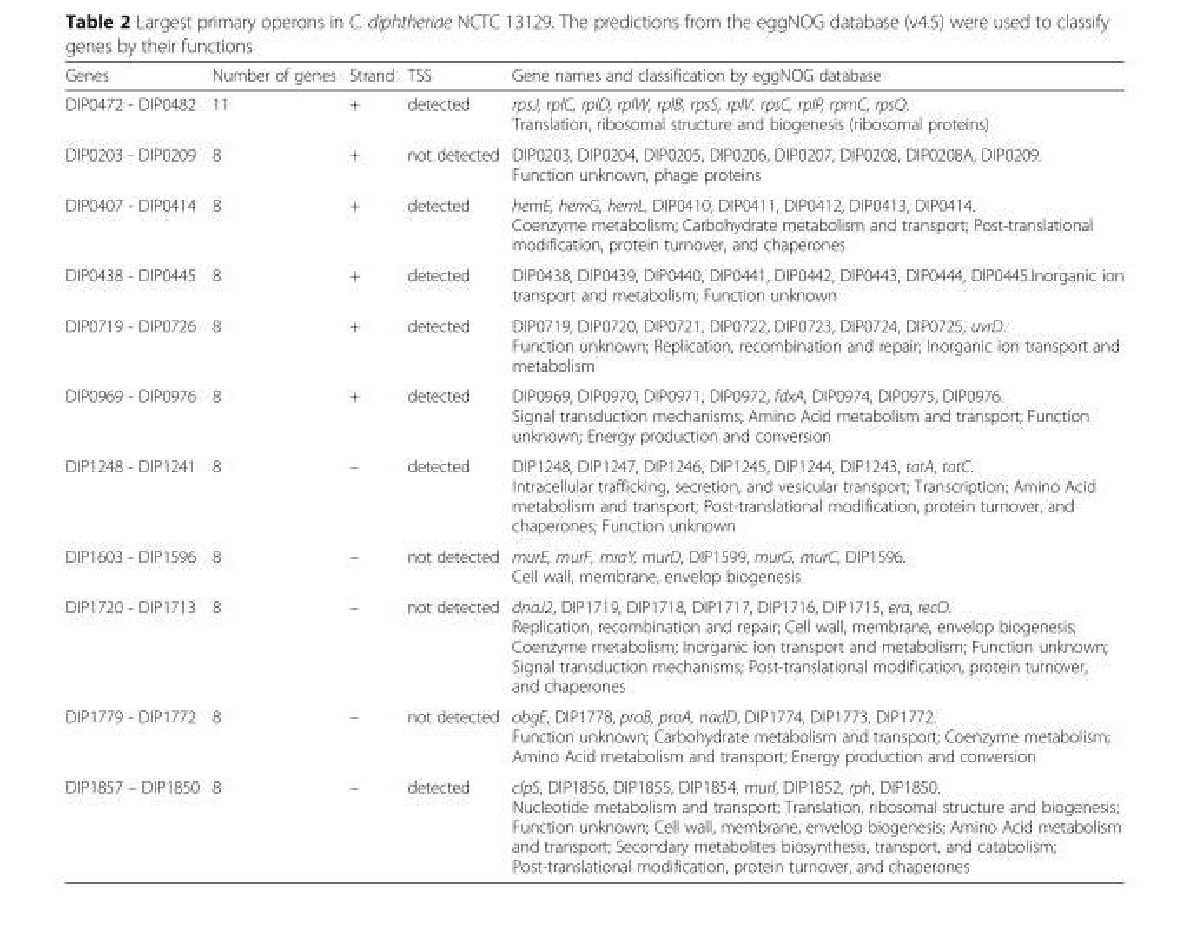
<table><thead><tr><td>Genes</td><td>Number of genes</td><td>Strand</td><td>TSS</td><td>Gene names and classification by eggNOG database</td></tr></thead><tbody><tr><td>DIP0472 - DIP0482</td><td>11</td><td>+</td><td>detected</td><td>rpsJ, rplC, rplD, rplW, rplB, rpsS, rplV. rpsC, rplP, rpmC, rpsQ. Translation, ribosomal structure and biogenesis (ribosomal proteins)</td></tr><tr><td>DIP0203 - DIP0209</td><td>8</td><td>+</td><td>not detected</td><td>DIP0203, DIP0204, DIP0205, DIP0206, DIP0207, DIP0208, DIP0208A, DIP0209. Function unknown, phage proteins</td></tr><tr><td>DIP0407 - DIP0414</td><td>8</td><td>+</td><td>detected</td><td>hemE, hemG, hemL, DIP0410, DIP0411, DIP0412, DIP0413, DIP0414. Coenzyme metabolism; Carbohydrate metabolism and transport; Post-translational modification, protein turnover, and chaperones</td></tr><tr><td>DIP0438 - DIP0445</td><td>8</td><td>+</td><td>detected</td><td>DIP0438, DIP0439, DIP0440, DIP0441, DIP0442, DIP0443, DIP0444, DIP0445.Inorganic ion transport and metabolism; Function unknown</td></tr><tr><td>DIP0719 - DIP0726</td><td>8</td><td>+</td><td>detected</td><td>DIP0719, DIP0720, DIP0721, DIP0722, DIP0723, DIP0724, DIP0725, uvrD. Function unknown; Replication, recombination and repair; Inorganic ion transport and metabolism</td></tr><tr><td>DIP0969 - DIP0976</td><td>8</td><td>+</td><td>detected</td><td>DIP0969, DIP0970, DIP0971, DIP0972, fdxA, DIP0974, DIP0975, DIP0976. Signal transduction mechanisms; Amino Acid metabolism and transport; Function unknown; Energy production and conversion</td></tr><tr><td>DIP1248 - DIP1241</td><td>8</td><td>–</td><td>detected</td><td>DIP1248, DIP1247, DIP1246, DIP1245, DIP1244, DIP1243, tatA, tatC. Intracellular trafficking, secretion, and vesicular transport; Transcription; Amino Acid metabolism and transport; Post-translational modification, protein turnover, and chaperones; Function unknown</td></tr><tr><td>DIP1603 - DIP1596</td><td>8</td><td>–</td><td>not detected</td><td>murE, murF, mraY, murD, DIP1599, murG, murC, DIP1596. Cell wall, membrane, envelop biogenesis</td></tr><tr><td>DIP1720 - DIP1713</td><td>8</td><td>–</td><td>not detected</td><td>dnaJ2, DIP1719, DIP1718, DIP1717, DIP1716, DIP1715, era, recO. Replication, recombination and repair; Cell wall, membrane, envelop biogenesis; Coenzyme metabolism; Inorganic ion transport and metabolism; Function unknown; Signal transduction mechanisms; Post-translational modification, protein turnover, and chaperones</td></tr><tr><td>DIP1779 - DIP1772</td><td>8</td><td>–</td><td>not detected</td><td>obgE, DIP1778, proB, proA, nadD, DIP1774, DIP1773, DIP1772. Function unknown; Carbohydrate metabolism and transport; Coenzyme metabolism; Amino Acid metabolism and transport; Energy production and conversion</td></tr><tr><td>DIP1857 – DIP1850</td><td>8</td><td>–</td><td>detected</td><td>clpS, DIP1856, DIP1855, DIP1854, murI, DIP1852, rph, DIP1850. Nucleotide metabolism and transport; Translation, ribosomal structure and biogenesis; Function unknown; Cell wall, membrane, envelop biogenesis; Amino Acid metabolism and transport; Secondary metabolites biosynthesis, transport, and catabolism; Post-translational modification, protein turnover, and chaperones</td></tr></tbody></table>